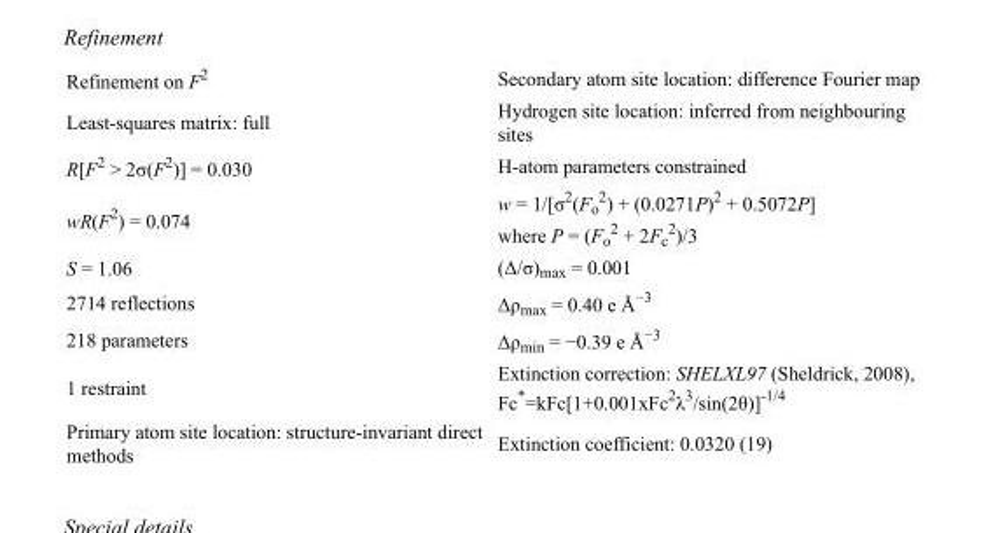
<table><tbody><tr><td>Refinement on F<sup>2</sup></td><td>Secondary atom site location: difference Fourier map</td></tr><tr><td>Least-squares matrix: full</td><td>Hydrogen site location: inferred from neighbouring sites</td></tr><tr><td>R[F<sup>2</sup> &gt; 2σ(F<sup>2</sup>)] = 0.030</td><td>H-atom parameters constrained</td></tr><tr><td>wR(F<sup>2</sup>) = 0.074</td><td>w = 1/[σ<sup>2</sup>(F<sub>o</sub> <sup>2</sup>) + (0.0271P)<sup>2</sup> + 0.5072P] where P = (F<sub>o</sub> <sup>2</sup> + 2F<sub>c</sub> <sup>2</sup>)/3</td></tr><tr><td>S = 1.06</td><td>(Δ/σ)<sub>max</sub> = 0.001</td></tr><tr><td>2714 reflections</td><td>Δρ<sub>max</sub> = 0.40 e Å<sup>−3</sup></td></tr><tr><td>218 parameters</td><td>Δρ<sub>min</sub> = −0.39 e Å<sup>−3</sup></td></tr><tr><td>1 restraint</td><td>Extinction correction: SHELXL97 (Sheldrick, 2008), Fc*=kFc[1+0.001xFc<sup>2</sup>λ<sup>3</sup>/sin(2θ)]<sup>-1/4</sup></td></tr><tr><td>Primary atom site location: structure-invariant direct methods</td><td>Extinction coefficient: 0.0320 (19)</td></tr></tbody></table>